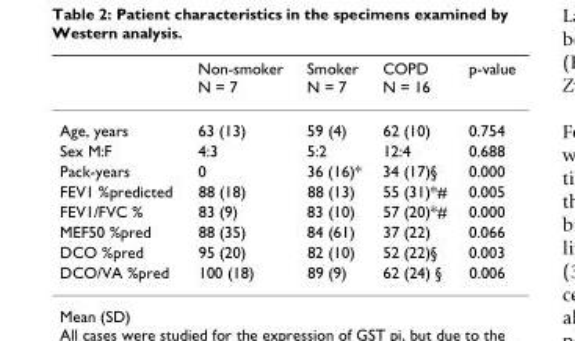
<table><thead><tr><td></td><td>Non-smoker N = 7</td><td>Smoker N = 7</td><td>COPD N = 16</td><td>p-value</td></tr></thead><tbody><tr><td>Age, years</td><td>63 (13)</td><td>59 (4)</td><td>62 (10)</td><td>0.754</td></tr><tr><td>Sex M:F</td><td>4:3</td><td>5:2</td><td>12:4</td><td>0.688</td></tr><tr><td>Pack-years</td><td>0</td><td>36 (16)*</td><td>34 (17)§</td><td>0.000</td></tr><tr><td>FEV1 %predicted</td><td>88 (18)</td><td>88 (13)</td><td>55 (31)*#</td><td>0.005</td></tr><tr><td>FEV1/FVC %</td><td>83 (9)</td><td>83 (10)</td><td>57 (20)*#</td><td>0.000</td></tr><tr><td>MEF50 %pred</td><td>88 (35)</td><td>84 (61)</td><td>37 (22)</td><td>0.066</td></tr><tr><td>DCO %pred</td><td>95 (20)</td><td>82 (10)</td><td>52 (22)§</td><td>0.003</td></tr><tr><td>DCO/VA %pred</td><td>100 (18)</td><td>89 (9)</td><td>62 (24) §</td><td>0.006</td></tr></tbody></table>